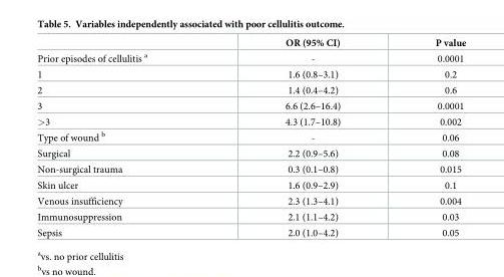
<table><thead><tr><td></td><td>OR (95% CI)</td><td>P value</td></tr></thead><tbody><tr><td>Prior episodes of cellulitis <sup>a</sup></td><td>-</td><td>0.0001</td></tr><tr><td>1</td><td>1.6 (0.8–3.1)</td><td>0.2</td></tr><tr><td>2</td><td>1.4 (0.4–4.2)</td><td>0.6</td></tr><tr><td>3</td><td>6.6 (2.6–16.4)</td><td>0.0001</td></tr><tr><td>&gt;3</td><td>4.3 (1.7–10.8)</td><td>0.002</td></tr><tr><td>Type of wound <sup>b</sup></td><td>-</td><td>0.06</td></tr><tr><td>Surgical</td><td>2.2 (0.9–5.6)</td><td>0.08</td></tr><tr><td>Non-surgical trauma</td><td>0.3 (0.1–0.8)</td><td>0.015</td></tr><tr><td>Skin ulcer</td><td>1.6 (0.9–2.9)</td><td>0.1</td></tr><tr><td>Venous insufficiency</td><td>2.3 (1.3–4.1)</td><td>0.004</td></tr><tr><td>Immunosuppression</td><td>2.1 (1.1–4.2)</td><td>0.03</td></tr><tr><td>Sepsis</td><td>2.0 (1.0–4.2)</td><td>0.05</td></tr></tbody></table>